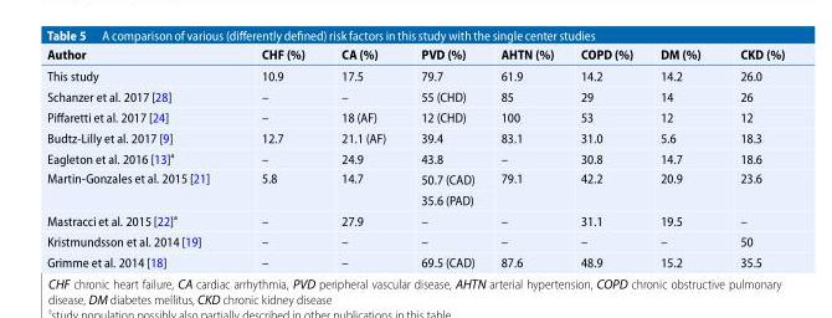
<table><thead><tr><td>Author</td><td>CHF (%)</td><td>CA (%)</td><td>PVD (%)</td><td>AHTN (%)</td><td>COPD (%)</td><td>DM (%)</td><td>CKD (%)</td></tr></thead><tbody><tr><td>This study</td><td>10.9</td><td>17.5</td><td>79.7</td><td>61.9</td><td>14.2</td><td>14.2</td><td>26.0</td></tr><tr><td>Schanzer et al. 2017 [28]</td><td>–</td><td>–</td><td>55 (CHD)</td><td>85</td><td>29</td><td>14</td><td>26</td></tr><tr><td>Piffaretti et al. 2017 [24]</td><td>–</td><td>18 (AF)</td><td>12 (CHD)</td><td>100</td><td>53</td><td>12</td><td>12</td></tr><tr><td>Budtz-Lilly et al. 2017 [9]</td><td>12.7</td><td>21.1 (AF)</td><td>39.4</td><td>83.1</td><td>31.0</td><td>5.6</td><td>18.3</td></tr><tr><td>Eagleton et al. 2016 [13]<sup>a</sup></td><td>–</td><td>24.9</td><td>43.8</td><td>–</td><td>30.8</td><td>14.7</td><td>18.6</td></tr><tr><td rowspan="2">Martin-Gonzales et al. 2015 [21]</td><td rowspan="2">5.8</td><td rowspan="2">14.7</td><td>50.7 (CAD)</td><td rowspan="2">79.1</td><td rowspan="2">42.2</td><td rowspan="2">20.9</td><td rowspan="2">23.6</td></tr><tr><td>35.6 (PAD)</td></tr><tr><td>Mastracci et al. 2015 [22]<sup>a</sup></td><td>–</td><td>27.9</td><td>–</td><td>–</td><td>31.1</td><td>19.5</td><td>–</td></tr><tr><td>Kristmundsson et al. 2014 [19]</td><td>–</td><td>–</td><td>–</td><td>–</td><td>–</td><td>–</td><td>50</td></tr><tr><td>Grimme et al. 2014 [18]</td><td>–</td><td>–</td><td>69.5 (CAD)</td><td>87.6</td><td>48.9</td><td>15.2</td><td>35.5</td></tr></tbody></table>